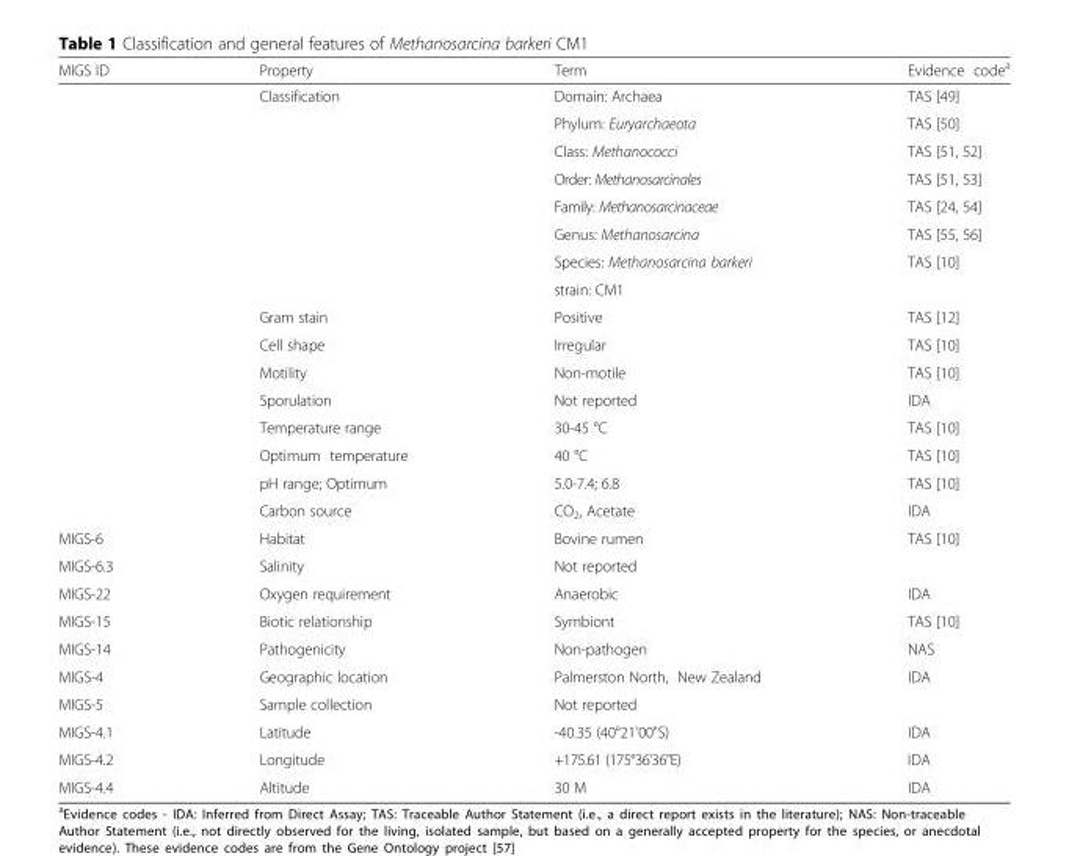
<table><thead><tr><td>MIGS ID</td><td>Property</td><td>Term</td><td>Evidence code<sup>a</sup></td></tr></thead><tbody><tr><td></td><td>Classification</td><td>Domain: Archaea</td><td>TAS [49]</td></tr><tr><td></td><td></td><td>Phylum: Euryarchaeota</td><td>TAS [50]</td></tr><tr><td></td><td></td><td>Class: Methanococci</td><td>TAS [51, 52]</td></tr><tr><td></td><td></td><td>Order: Methanosarcinales</td><td>TAS [51, 53]</td></tr><tr><td></td><td></td><td>Family: Methanosarcinaceae</td><td>TAS [24, 54]</td></tr><tr><td></td><td></td><td>Genus: Methanosarcina</td><td>TAS [55, 56]</td></tr><tr><td></td><td></td><td>Species: Methanosarcina barkeri</td><td>TAS [10]</td></tr><tr><td></td><td></td><td>strain: CM1</td><td></td></tr><tr><td></td><td>Gram stain</td><td>Positive</td><td>TAS [12]</td></tr><tr><td></td><td>Cell shape</td><td>Irregular</td><td>TAS [10]</td></tr><tr><td></td><td>Motility</td><td>Non-motile</td><td>TAS [10]</td></tr><tr><td></td><td>Sporulation</td><td>Not reported</td><td>IDA</td></tr><tr><td></td><td>Temperature range</td><td>30-45 °C</td><td>TAS [10]</td></tr><tr><td></td><td>Optimum temperature</td><td>40 °C</td><td>TAS [10]</td></tr><tr><td></td><td>pH range; Optimum</td><td>5.0-7.4; 6.8</td><td>TAS [10]</td></tr><tr><td></td><td>Carbon source</td><td>CO<sub>2</sub>, Acetate</td><td>IDA</td></tr><tr><td>MIGS-6</td><td>Habitat</td><td>Bovine rumen</td><td>TAS [10]</td></tr><tr><td>MIGS-6.3</td><td>Salinity</td><td>Not reported</td><td></td></tr><tr><td>MIGS-22</td><td>Oxygen requirement</td><td>Anaerobic</td><td>IDA</td></tr><tr><td>MIGS-15</td><td>Biotic relationship</td><td>Symbiont</td><td>TAS [10]</td></tr><tr><td>MIGS-14</td><td>Pathogenicity</td><td>Non-pathogen</td><td>NAS</td></tr><tr><td>MIGS-4</td><td>Geographic location</td><td>Palmerston North, New Zealand</td><td>IDA</td></tr><tr><td>MIGS-5</td><td>Sample collection</td><td>Not reported</td><td></td></tr><tr><td>MIGS-4.1</td><td>Latitude</td><td>-40.35 (40°21&#x27;00&quot;S)</td><td>IDA</td></tr><tr><td>MIGS-4.2</td><td>Longitude</td><td>+175.61 (175°36&#x27;36&quot;E)</td><td>IDA</td></tr><tr><td>MIGS-4.4</td><td>Altitude</td><td>30 M</td><td>IDA</td></tr></tbody></table>